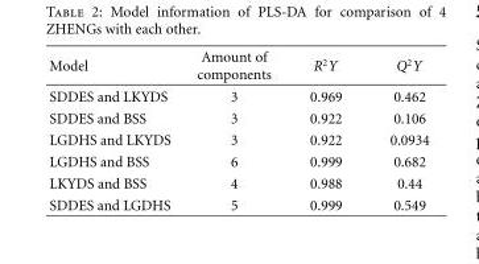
<table><thead><tr><td>Model</td><td>Amount of components</td><td>R<sup>2</sup>Y</td><td>Q<sup>2</sup>Y</td></tr></thead><tbody><tr><td>SDDES and LKYDS</td><td>3</td><td>0.969</td><td>0.462</td></tr><tr><td>SDDES and BSS</td><td>3</td><td>0.922</td><td>0.106</td></tr><tr><td>LGDHS and LKYDS</td><td>3</td><td>0.922</td><td>0.0934</td></tr><tr><td>LGDHS and BSS</td><td>6</td><td>0.999</td><td>0.682</td></tr><tr><td>LKYDS and BSS</td><td>4</td><td>0.988</td><td>0.44</td></tr><tr><td>SDDES and LGDHS</td><td>5</td><td>0.999</td><td>0.549</td></tr></tbody></table>